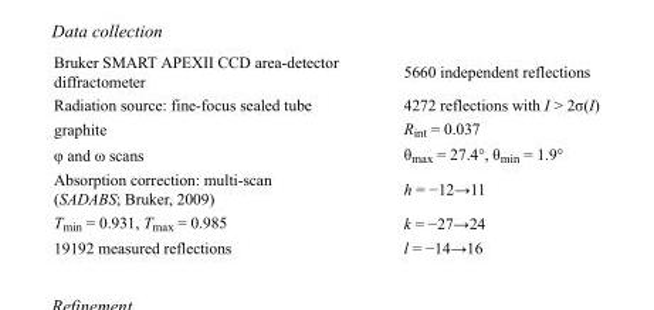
<table><tbody><tr><td>Bruker SMART APEXII CCD area-detector diffractometer</td><td>5660 independent reflections</td></tr><tr><td>Radiation source: fine-focus sealed tube</td><td>4272 reflections with I &gt; 2σ(I)</td></tr><tr><td>graphite</td><td>R<sub>int</sub> = 0.037</td></tr><tr><td>φ and ω scans</td><td>θ<sub>max</sub> = 27.4°, θ<sub>min</sub> = 1.9°</td></tr><tr><td>Absorption correction: multi-scan (SADABS; Bruker, 2009)</td><td>h = −12→11</td></tr><tr><td>T<sub>min</sub> = 0.931, T<sub>max</sub> = 0.985</td><td>k = −27→24</td></tr><tr><td>19192 measured reflections</td><td>l = −14→16</td></tr></tbody></table>